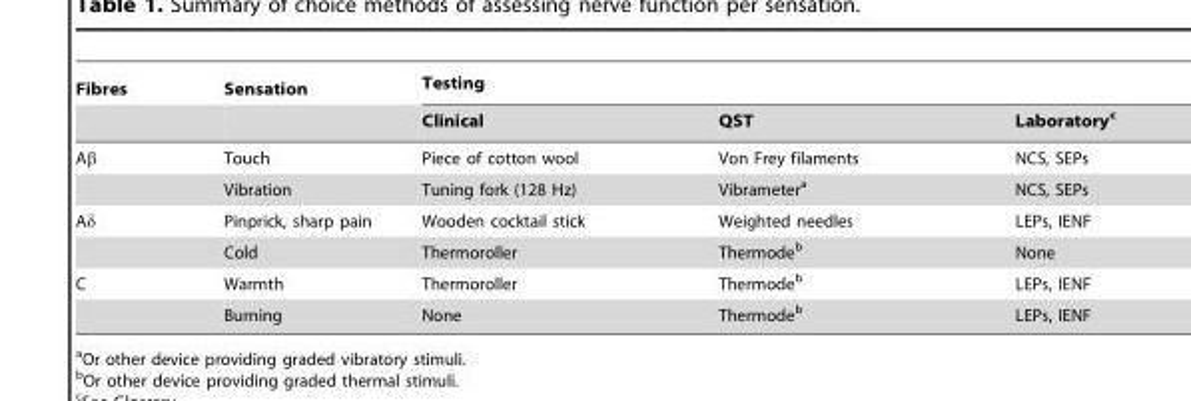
<table><thead><tr><td rowspan="2">Fibres</td><td rowspan="2">Sensation</td><td colspan="3">Testing</td></tr><tr><td>Clinical</td><td>QST</td><td>Laboratory<sup>c</sup></td></tr></thead><tbody><tr><td rowspan="2">Aβ</td><td>Touch</td><td>Piece of cotton wool</td><td>Von Frey filaments</td><td>NCS, SEPs</td></tr><tr><td>Vibration</td><td>Tuning fork (128 Hz)</td><td>Vibrameter<sup>a</sup></td><td>NCS, SEPs</td></tr><tr><td rowspan="2">Aδ</td><td>Pinprick, sharp pain</td><td>Wooden cocktail stick</td><td>Weighted needles</td><td>LEPs, IENF</td></tr><tr><td>Cold</td><td>Thermoroller</td><td>Thermode<sup>b</sup></td><td>None</td></tr><tr><td rowspan="2">C</td><td>Warmth</td><td>Thermoroller</td><td>Thermode<sup>b</sup></td><td>LEPs, IENF</td></tr><tr><td>Burning</td><td>None</td><td>Thermode<sup>b</sup></td><td>LEPs, IENF</td></tr></tbody></table>